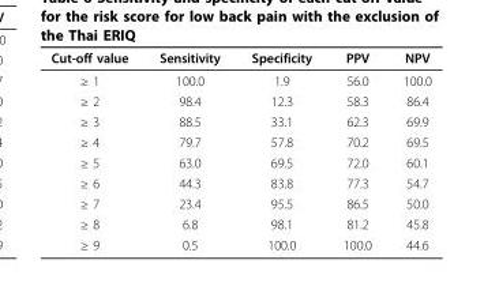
<table><thead><tr><td>Cut-off value</td><td>Sensitivity</td><td>Specificity</td><td>PPV</td><td>NPV</td></tr></thead><tbody><tr><td>≥ 1</td><td>100.0</td><td>1.9</td><td>56.0</td><td>100.0</td></tr><tr><td>≥ 2</td><td>98.4</td><td>12.3</td><td>58.3</td><td>86.4</td></tr><tr><td>≥ 3</td><td>88.5</td><td>33.1</td><td>62.3</td><td>69.9</td></tr><tr><td>≥ 4</td><td>79.7</td><td>57.8</td><td>70.2</td><td>69.5</td></tr><tr><td>≥ 5</td><td>63.0</td><td>69.5</td><td>72.0</td><td>60.1</td></tr><tr><td>≥ 6</td><td>44.3</td><td>83.8</td><td>77.3</td><td>54.7</td></tr><tr><td>≥ 7</td><td>23.4</td><td>95.5</td><td>86.5</td><td>50.0</td></tr><tr><td>≥ 8</td><td>6.8</td><td>98.1</td><td>81.2</td><td>45.8</td></tr><tr><td>≥ 9</td><td>0.5</td><td>100.0</td><td>100.0</td><td>44.6</td></tr></tbody></table>